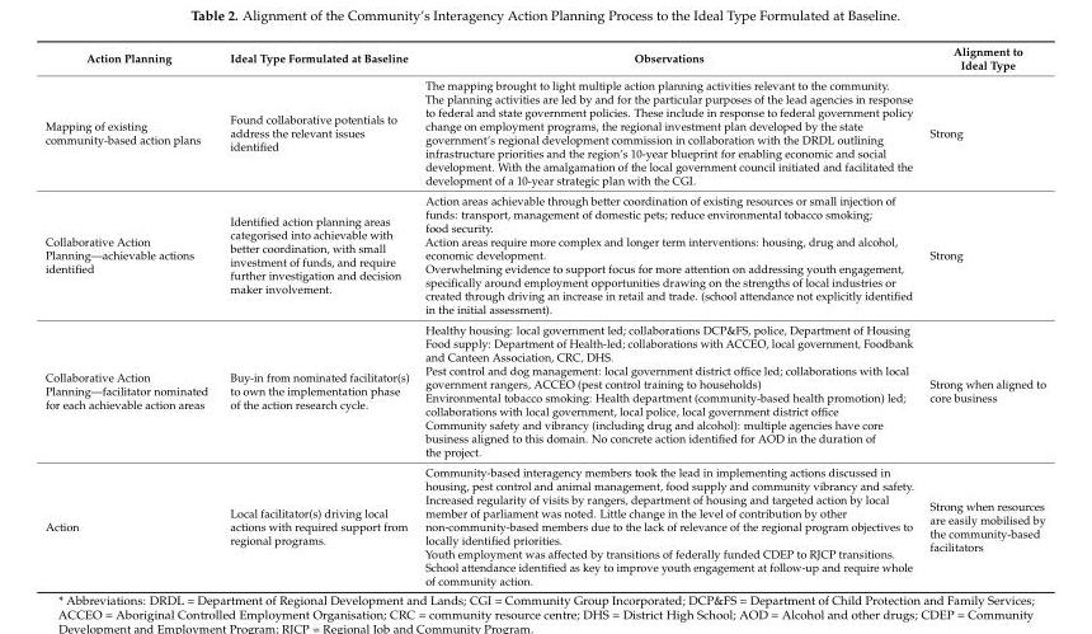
<table><thead><tr><td>Action Planning</td><td>Ideal Type Formulated at Baseline</td><td>Observations</td><td>Alignment to Ideal Type</td></tr></thead><tbody><tr><td>Mapping of existing community-based action plans</td><td>Found collaborative potentials to address the relevant issues identified</td><td>The mapping brought to light multiple action planning activities relevant to the community. The planning activities are led by and for the particular purposes of the lead agencies in response to federal and state government policies. These include in response to federal government policy change on employment programs, the regional investment plan developed by the state government’s regional development commission in collaboration with the DRDL outlining infrastructure priorities and the region’s 10-year blueprint for enabling economic and social development. With the amalgamation of the local government council initiated and facilitated the development of a 10-year strategic plan with the CGI.</td><td>Strong</td></tr><tr><td>Collaborative Action Planning—achievable actions identified</td><td>Identified action planning areas categorised into achievable with better coordination, with small investment of funds, and require further investigation and decision maker involvement.</td><td>Action areas achievable through better coordination of existing resources or small injection of funds: transport, management of domestic pets; reduce environmental tobacco smoking; food security. Action areas require more complex and longer term interventions: housing, drug and alcohol, economic development. Overwhelming evidence to support focus for more attention on addressing youth engagement, specifically around employment opportunities drawing on the strengths of local industries or created through driving an increase in retail and trade. (school attendance not explicitly identified in the initial assessment).</td><td>Strong</td></tr><tr><td>Collaborative Action Planning—facilitator nominated for each achievable action areas</td><td>Buy-in from nominated facilitator(s) to own the implementation phase of the action research cycle.</td><td>Healthy housing: local government led; collaborations DCP&amp;FS, police, Department of Housing Food supply: Department of Health-led; collaborations with ACCEO, local government, Foodbank and Canteen Association, CRC, DHS. Pest control and dog management: local government district office led; collaborations with local government rangers, ACCEO (pest control training to households) Environmental tobacco smoking: Health department (community-based health promotion) led; collaborations with local government, local police, local government district office Community safety and vibrancy (including drug and alcohol): multiple agencies have core business aligned to this domain. No concrete action identified for AOD in the duration of the project.</td><td>Strong when aligned to core business</td></tr><tr><td>Action</td><td>Local facilitator(s) driving local actions with required support from regional programs.</td><td>Community-based interagency members took the lead in implementing actions discussed in housing, pest control and animal management, food supply and community vibrancy and safety. Increased regularity of visits by rangers, department of housing and targeted action by local member of parliament was noted. Little change in the level of contribution by other non-community-based members due to the lack of relevance of the regional program objectives to locally identified priorities. Youth employment was affected by transitions of federally funded CDEP to RJCP transitions. School attendance identified as key to improve youth engagement at follow-up and require whole of community action.</td><td>Strong when resources are easily mobilised by the community-based facilitators</td></tr></tbody></table>